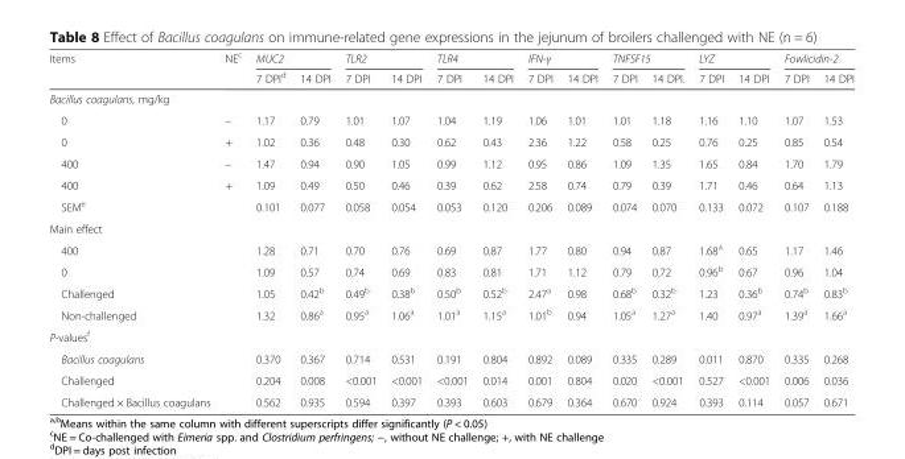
<table><thead><tr><td rowspan="2">Items</td><td rowspan="2">NE<sup>c</sup></td><td colspan="2">MUC2</td><td colspan="2">TLR2</td><td colspan="2">TLR4</td><td colspan="2">IFN-γ</td><td colspan="2">TNFSF15</td><td colspan="2">LYZ</td><td colspan="2">Fowlicidin-2</td></tr><tr><td>7 DPI<sup>d</sup></td><td>14 DPI</td><td>7 DPI</td><td>14 DPI</td><td>7 DPI</td><td>14 DPI</td><td>7 DPI</td><td>14 DPI</td><td>7 DPI</td><td>14 DPI.</td><td>7 DPI</td><td>14 DPI</td><td>7 DPI</td><td>14 DPI</td></tr></thead><tbody><tr><td colspan="16">Bacillus coagulans, mg/kg</td></tr><tr><td>0</td><td>–</td><td>1.17</td><td>0.79</td><td>1.01</td><td>1.07</td><td>1.04</td><td>1.19</td><td>1.06</td><td>1.01</td><td>1.01</td><td>1.18</td><td>1.16</td><td>1.10</td><td>1.07</td><td>1.53</td></tr><tr><td>0</td><td>+</td><td>1.02</td><td>0.36</td><td>0.48</td><td>0.30</td><td>0.62</td><td>0.43</td><td>2.36</td><td>1.22</td><td>0.58</td><td>0.25</td><td>0.76</td><td>0.25</td><td>0.85</td><td>0.54</td></tr><tr><td>400</td><td>–</td><td>1.47</td><td>0.94</td><td>0.90</td><td>1.05</td><td>0.99</td><td>1.12</td><td>0.95</td><td>0.86</td><td>1.09</td><td>1.35</td><td>1.65</td><td>0.84</td><td>1.70</td><td>1.79</td></tr><tr><td>400</td><td>+</td><td>1.09</td><td>0.49</td><td>0.50</td><td>0.46</td><td>0.39</td><td>0.62</td><td>2.58</td><td>0.74</td><td>0.79</td><td>0.39</td><td>1.71</td><td>0.46</td><td>0.64</td><td>1.13</td></tr><tr><td>SEM<sup>e</sup></td><td></td><td>0.101</td><td>0.077</td><td>0.058</td><td>0.054</td><td>0.053</td><td>0.120</td><td>0.206</td><td>0.089</td><td>0.074</td><td>0.070</td><td>0.133</td><td>0.072</td><td>0.107</td><td>0.188</td></tr><tr><td colspan="16">Main effect</td></tr><tr><td>400</td><td></td><td>1.28</td><td>0.71</td><td>0.70</td><td>0.76</td><td>0.69</td><td>0.87</td><td>1.77</td><td>0.80</td><td>0.94</td><td>0.87</td><td>1.68<sup>a</sup></td><td>0.65</td><td>1.17</td><td>1.46</td></tr><tr><td>0</td><td></td><td>1.09</td><td>0.57</td><td>0.74</td><td>0.69</td><td>0.83</td><td>0.81</td><td>1.71</td><td>1.12</td><td>0.79</td><td>0.72</td><td>0.96<sup>b</sup></td><td>0.67</td><td>0.96</td><td>1.04</td></tr><tr><td>Challenged</td><td></td><td>1.05</td><td>0.42<sup>b</sup></td><td>0.49<sup>b</sup></td><td>0.38<sup>b</sup></td><td>0.50<sup>b</sup></td><td>0.52<sup>b</sup></td><td>2.47<sup>a</sup></td><td>0.98</td><td>0.68<sup>b</sup></td><td>0.32<sup>b</sup></td><td>1.23</td><td>0.36<sup>b</sup></td><td>0.74<sup>b</sup></td><td>0.83<sup>b</sup></td></tr><tr><td>Non-challenged</td><td></td><td>1.32</td><td>0.86<sup>a</sup></td><td>0.95<sup>a</sup></td><td>1.06<sup>a</sup></td><td>1.01<sup>a</sup></td><td>1.15<sup>a</sup></td><td>1.01<sup>b</sup></td><td>0.94</td><td>1.05<sup>a</sup></td><td>1.27<sup>a</sup></td><td>1.40</td><td>0.97<sup>a</sup></td><td>1.39<sup>a</sup></td><td>1.66<sup>a</sup></td></tr><tr><td colspan="16">P-values<sup>f</sup></td></tr><tr><td>Bacillus coagulans</td><td></td><td>0.370</td><td>0.367</td><td>0.714</td><td>0.531</td><td>0.191</td><td>0.804</td><td>0.892</td><td>0.089</td><td>0.335</td><td>0.289</td><td>0.011</td><td>0.870</td><td>0.335</td><td>0.268</td></tr><tr><td>Challenged</td><td></td><td>0.204</td><td>0.008</td><td>&lt;0.001</td><td>&lt;0.001</td><td>&lt;0.001</td><td>0.014</td><td>0.001</td><td>0.804</td><td>0.020</td><td>&lt;0.001</td><td>0.527</td><td>&lt;0.001</td><td>0.006</td><td>0.036</td></tr><tr><td>Challenged × Bacillus coagulans</td><td></td><td>0.562</td><td>0.935</td><td>0.594</td><td>0.397</td><td>0.393</td><td>0.603</td><td>0.679</td><td>0.364</td><td>0.670</td><td>0.924</td><td>0.393</td><td>0.114</td><td>0.057</td><td>0.671</td></tr></tbody></table>